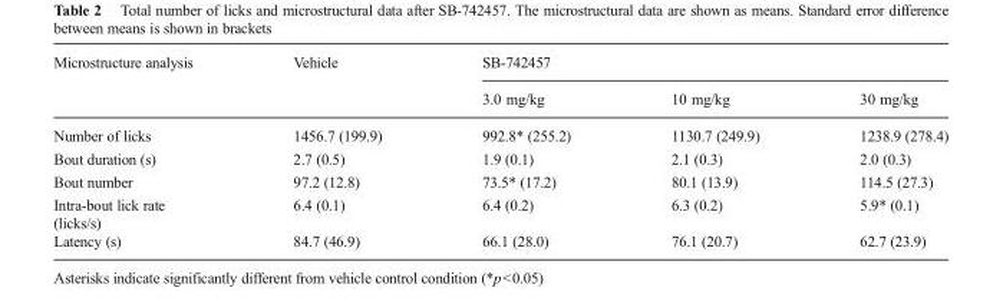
<table><thead><tr><td rowspan="2">Microstructure analysis</td><td rowspan="2">Vehicle</td><td colspan="3">SB-742457</td></tr><tr><td>3.0 mg/kg</td><td>10 mg/kg</td><td>30 mg/kg</td></tr></thead><tbody><tr><td>Number of licks</td><td>1456.7 (199.9)</td><td>992.8* (255.2)</td><td>1130.7 (249.9)</td><td>1238.9 (278.4)</td></tr><tr><td>Bout duration (s)</td><td>2.7 (0.5)</td><td>1.9 (0.1)</td><td>2.1 (0.3)</td><td>2.0 (0.3)</td></tr><tr><td>Bout number</td><td>97.2 (12.8)</td><td>73.5* (17.2)</td><td>80.1 (13.9)</td><td>114.5 (27.3)</td></tr><tr><td>Intra-bout lick rate (licks/s)</td><td>6.4 (0.1)</td><td>6.4 (0.2)</td><td>6.3 (0.2)</td><td>5.9* (0.1)</td></tr><tr><td>Latency (s)</td><td>84.7 (46.9)</td><td>66.1 (28.0)</td><td>76.1 (20.7)</td><td>62.7 (23.9)</td></tr></tbody></table>